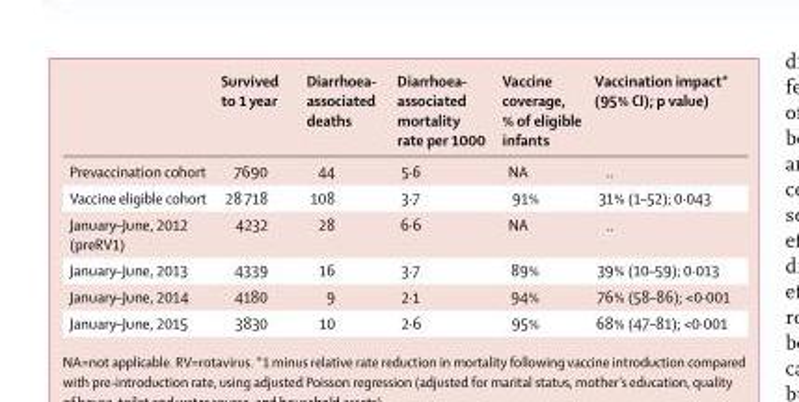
<table><thead><tr><td></td><td>Survived to 1 year</td><td>Diarrhoea- associated deaths</td><td>Diarrhoea- associated mortality rate per 1000</td><td>Vaccine coverage, % of eligible infants</td><td>Vaccination impact* (95% CI); p value)</td></tr></thead><tbody><tr><td>Prevaccination cohort</td><td>7690</td><td>44</td><td>5·6</td><td>NA</td><td>..</td></tr><tr><td>Vaccine eligible cohort</td><td>28 718</td><td>108</td><td>3·7</td><td>91%</td><td>31% (1–52); 0·043</td></tr><tr><td>January–June, 2012 (preRV1)</td><td>4232</td><td>28</td><td>6·6</td><td>NA</td><td>..</td></tr><tr><td>January–June, 2013</td><td>4339</td><td>16</td><td>3·7</td><td>89%</td><td>39% (10–59); 0·013</td></tr><tr><td>January–June, 2014</td><td>4180</td><td>9</td><td>2·1</td><td>94%</td><td>76% (58–86); &lt;0·001</td></tr><tr><td>January–June, 2015</td><td>3830</td><td>10</td><td>2·6</td><td>95%</td><td>68% (47–81); &lt;0·001</td></tr></tbody></table>